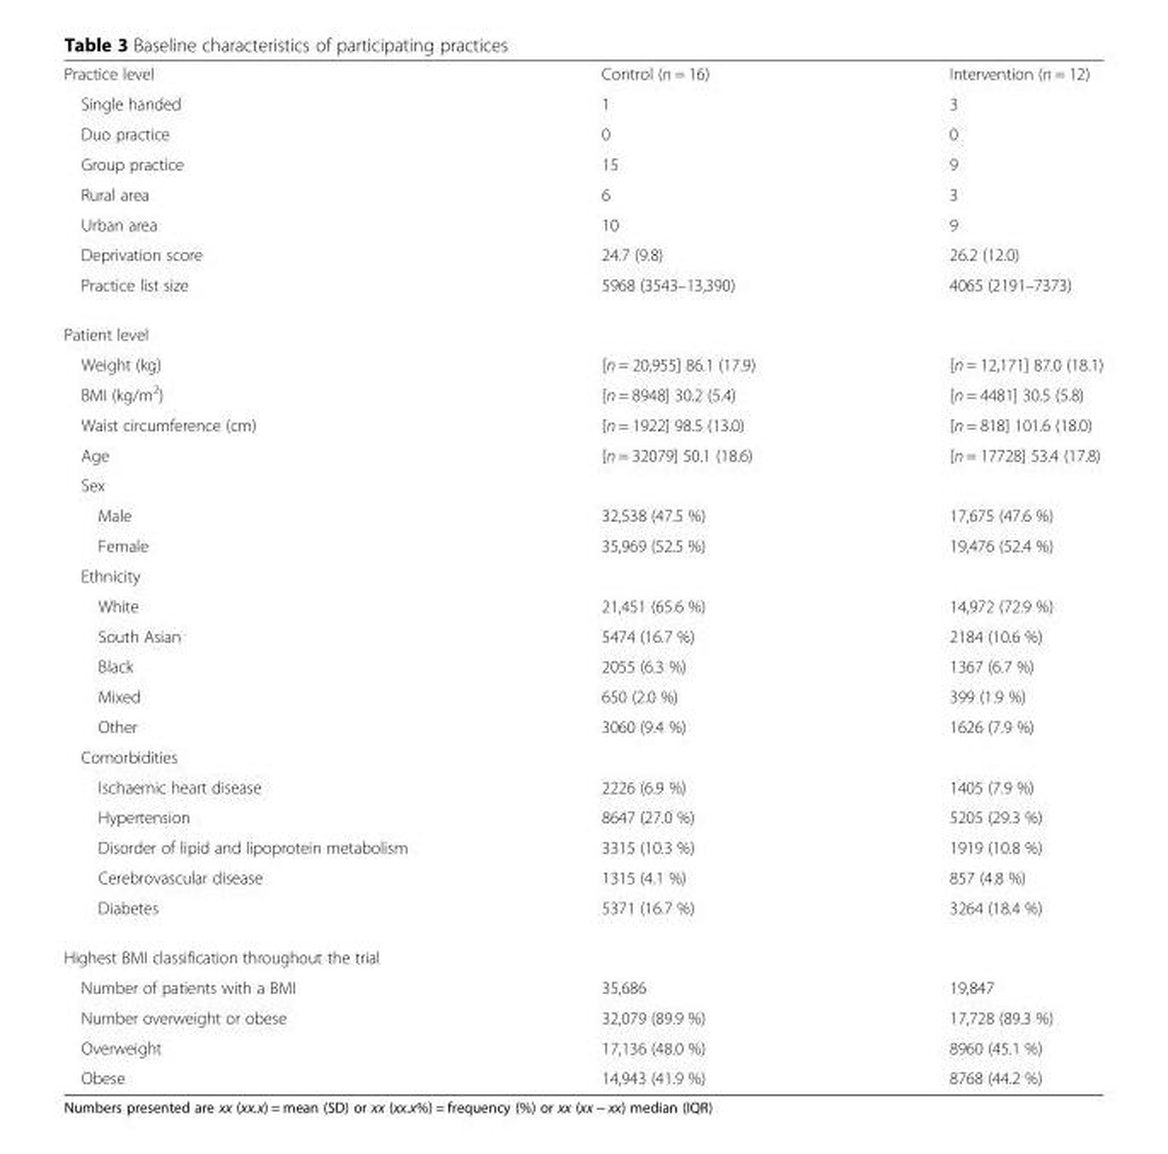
<table><tbody><tr><td>Practice level</td><td>Control (n = 16)</td><td>Intervention (n = 12)</td></tr><tr><td>Single handed</td><td>1</td><td>3</td></tr><tr><td>Duo practice</td><td>0</td><td>0</td></tr><tr><td>Group practice</td><td>15</td><td>9</td></tr><tr><td>Rural area</td><td>6</td><td>3</td></tr><tr><td>Urban area</td><td>10</td><td>9</td></tr><tr><td>Deprivation score</td><td>24.7 (9.8)</td><td>26.2 (12.0)</td></tr><tr><td>Practice list size</td><td>5968 (3543–13,390)</td><td>4065 (2191–7373)</td></tr><tr><td colspan="3">Patient level</td></tr><tr><td>Weight (kg)</td><td>[n = 20,955] 86.1 (17.9)</td><td>[n = 12,171] 87.0 (18.1)</td></tr><tr><td>BMI (kg/m<sup>2</sup>)</td><td>[n = 8948] 30.2 (5.4)</td><td>[n = 4481] 30.5 (5.8)</td></tr><tr><td>Waist circumference (cm)</td><td>[n = 1922] 98.5 (13.0)</td><td>[n = 818] 101.6 (18.0)</td></tr><tr><td>Age</td><td>[n = 32079] 50.1 (18.6)</td><td>[n = 17728] 53.4 (17.8)</td></tr><tr><td colspan="3">Sex</td></tr><tr><td>Male</td><td>32,538 (47.5 %)</td><td>17,675 (47.6 %)</td></tr><tr><td>Female</td><td>35,969 (52.5 %)</td><td>19,476 (52.4 %)</td></tr><tr><td colspan="3">Ethnicity</td></tr><tr><td>White</td><td>21,451 (65.6 %)</td><td>14,972 (72.9 %)</td></tr><tr><td>South Asian</td><td>5474 (16.7 %)</td><td>2184 (10.6 %)</td></tr><tr><td>Black</td><td>2055 (6.3 %)</td><td>1367 (6.7 %)</td></tr><tr><td>Mixed</td><td>650 (2.0 %)</td><td>399 (1.9 %)</td></tr><tr><td>Other</td><td>3060 (9.4 %)</td><td>1626 (7.9 %)</td></tr><tr><td colspan="3">Comorbidities</td></tr><tr><td>Ischaemic heart disease</td><td>2226 (6.9 %)</td><td>1405 (7.9 %)</td></tr><tr><td>Hypertension</td><td>8647 (27.0 %)</td><td>5205 (29.3 %)</td></tr><tr><td>Disorder of lipid and lipoprotein metabolism</td><td>3315 (10.3 %)</td><td>1919 (10.8 %)</td></tr><tr><td>Cerebrovascular disease</td><td>1315 (4.1 %)</td><td>857 (4.8 %)</td></tr><tr><td>Diabetes</td><td>5371 (16.7 %)</td><td>3264 (18.4 %)</td></tr><tr><td colspan="3">Highest BMI classification throughout the trial</td></tr><tr><td>Number of patients with a BMI</td><td>35,686</td><td>19,847</td></tr><tr><td>Number overweight or obese</td><td>32,079 (89.9 %)</td><td>17,728 (89.3 %)</td></tr><tr><td>Overweight</td><td>17,136 (48.0 %)</td><td>8960 (45.1 %)</td></tr><tr><td>Obese</td><td>14,943 (41.9 %)</td><td>8768 (44.2 %)</td></tr></tbody></table>